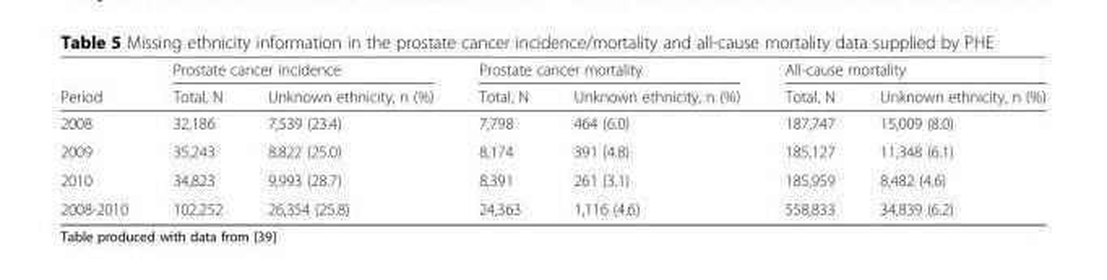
<table><thead><tr><td rowspan="2">Period</td><td colspan="2">Prostate cancer incidence</td><td colspan="2">Prostate cancer mortality</td><td colspan="2">All-cause mortality</td></tr><tr><td>Total, N</td><td>Unknown ethnicity, n (%)</td><td>Total, N</td><td>Unknown ethnicity, n (%)</td><td>Total, N</td><td>Unknown ethnicity, n (%)</td></tr></thead><tbody><tr><td>2008</td><td>32,186</td><td>7,539 (23.4)</td><td>7,798</td><td>464 (6.0)</td><td>187,747</td><td>15,009 (8.0)</td></tr><tr><td>2009</td><td>35,243</td><td>8,822 (25.0)</td><td>8,174</td><td>391 (4.8)</td><td>185,127</td><td>11,348 (6.1)</td></tr><tr><td>2010</td><td>34,823</td><td>9,993 (28.7)</td><td>8,391</td><td>261 (3.1)</td><td>185,959</td><td>8,482 (4.6)</td></tr><tr><td>2008-2010</td><td>102,252</td><td>26,354 (25.8)</td><td>24,363</td><td>1,116 (4.6)</td><td>558,833</td><td>34,839 (6.2)</td></tr></tbody></table>